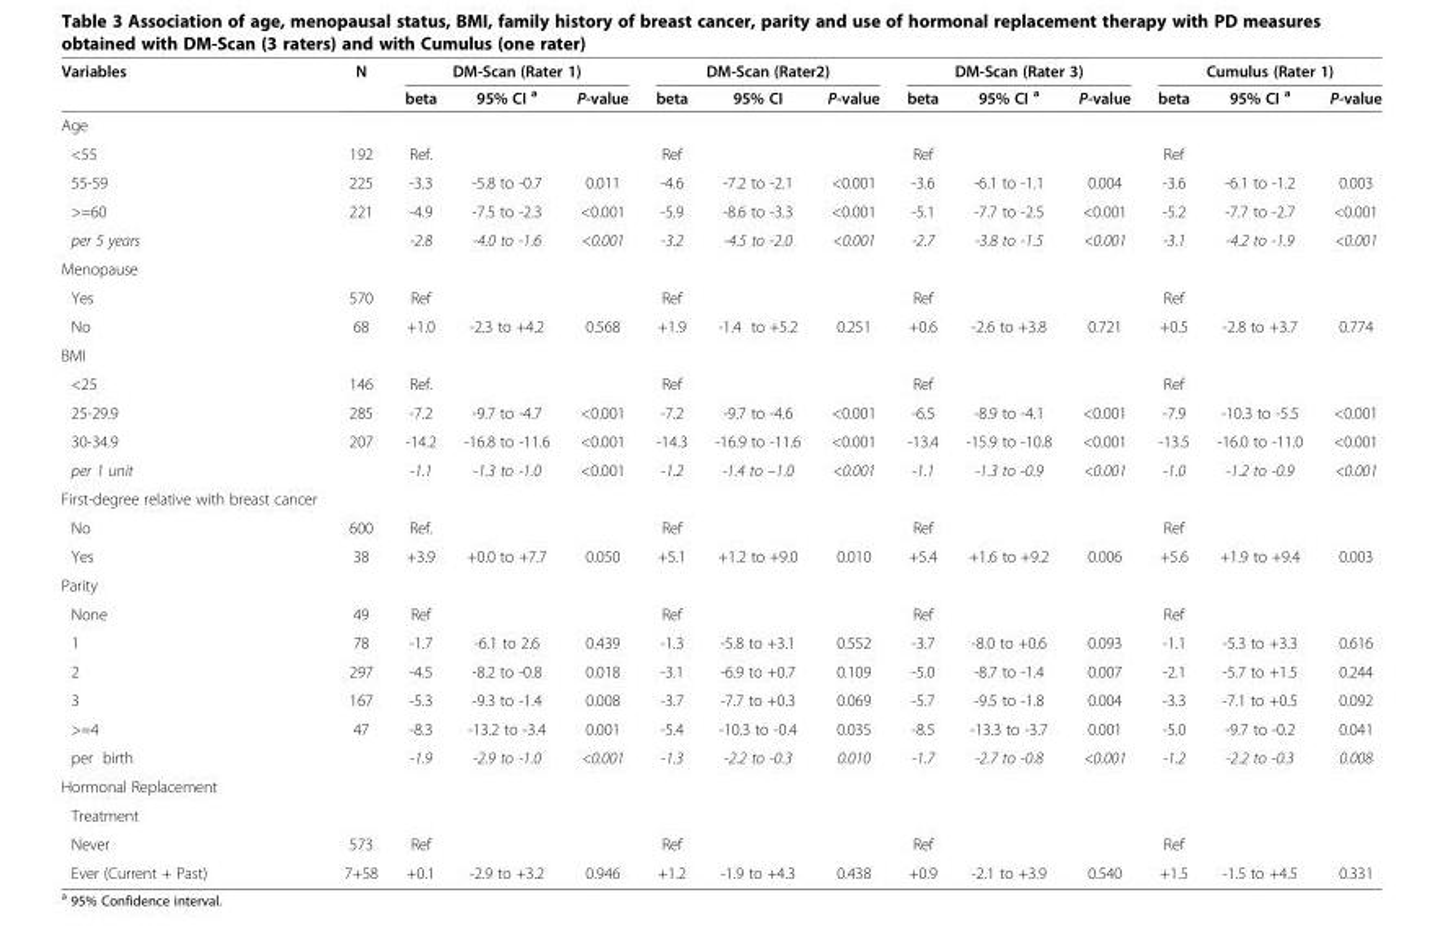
<table><thead><tr><td rowspan="2">Variables</td><td rowspan="2">N</td><td colspan="3">DM-Scan (Rater 1)</td><td colspan="3">DM-Scan (Rater2)</td><td colspan="3">DM-Scan (Rater 3)</td><td colspan="3">Cumulus (Rater 1)</td></tr><tr><td>beta</td><td>95% CI <sup>a</sup></td><td>P-value</td><td>beta</td><td>95% CI</td><td>P-value</td><td>beta</td><td>95% CI <sup>a</sup></td><td>P-value</td><td>beta</td><td>95% CI <sup>a</sup></td><td>P-value</td></tr></thead><tbody><tr><td colspan="14">Age</td></tr><tr><td>&lt;55</td><td>192</td><td>Ref.</td><td></td><td></td><td>Ref</td><td></td><td></td><td>Ref</td><td></td><td></td><td>Ref</td><td></td><td></td></tr><tr><td>55-59</td><td>225</td><td>-3.3</td><td>-5.8 to -0.7</td><td>0.011</td><td>-4.6</td><td>-7.2 to -2.1</td><td>&lt;0.001</td><td>-3.6</td><td>-6.1 to -1.1</td><td>0.004</td><td>-3.6</td><td>-6.1 to -1.2</td><td>0.003</td></tr><tr><td>&gt;=60</td><td>221</td><td>-4.9</td><td>-7.5 to -2.3</td><td>&lt;0.001</td><td>-5.9</td><td>-8.6 to -3.3</td><td>&lt;0.001</td><td>-5.1</td><td>-7.7 to -2.5</td><td>&lt;0.001</td><td>-5.2</td><td>-7.7 to -2.7</td><td>&lt;0.001</td></tr><tr><td>per 5 years</td><td></td><td>-2.8</td><td>-4.0 to -1.6</td><td>&lt;0.001</td><td>-3.2</td><td>-4.5 to -2.0</td><td>&lt;0.001</td><td>-2.7</td><td>-3.8 to -1.5</td><td>&lt;0.001</td><td>-3.1</td><td>-4.2 to -1.9</td><td>&lt;0.001</td></tr><tr><td colspan="14">Menopause</td></tr><tr><td>Yes</td><td>570</td><td>Ref</td><td></td><td></td><td>Ref</td><td></td><td></td><td>Ref</td><td></td><td></td><td>Ref</td><td></td><td></td></tr><tr><td>No</td><td>68</td><td>+1.0</td><td>-2.3 to +4.2</td><td>0.568</td><td>+1.9</td><td>-1.4 to +5.2</td><td>0.251</td><td>+0.6</td><td>-2.6 to +3.8</td><td>0.721</td><td>+0.5</td><td>-2.8 to +3.7</td><td>0.774</td></tr><tr><td colspan="14">BMI</td></tr><tr><td>&lt;25</td><td>146</td><td>Ref.</td><td></td><td></td><td>Ref</td><td></td><td></td><td>Ref</td><td></td><td></td><td>Ref</td><td></td><td></td></tr><tr><td>25-29.9</td><td>285</td><td>-7.2</td><td>-9.7 to -4.7</td><td>&lt;0.001</td><td>-7.2</td><td>-9.7 to -4.6</td><td>&lt;0.001</td><td>-6.5</td><td>-8.9 to -4.1</td><td>&lt;0.001</td><td>-7.9</td><td>-10.3 to -5.5</td><td>&lt;0.001</td></tr><tr><td>30-34.9</td><td>207</td><td>-14.2</td><td>-16.8 to -11.6</td><td>&lt;0.001</td><td>-14.3</td><td>-16.9 to -11.6</td><td>&lt;0.001</td><td>-13.4</td><td>-15.9 to -10.8</td><td>&lt;0.001</td><td>-13.5</td><td>-16.0 to -11.0</td><td>&lt;0.001</td></tr><tr><td>per 1 unit</td><td></td><td>-1.1</td><td>-1.3 to -1.0</td><td>&lt;0.001</td><td>-1.2</td><td>-1.4 to –1.0</td><td>&lt;0.001</td><td>-1.1</td><td>-1.3 to -0.9</td><td>&lt;0.001</td><td>-1.0</td><td>-1.2 to -0.9</td><td>&lt;0.001</td></tr><tr><td colspan="14">First-degree relative with breast cancer</td></tr><tr><td>No</td><td>600</td><td>Ref.</td><td></td><td></td><td>Ref</td><td></td><td></td><td>Ref</td><td></td><td></td><td>Ref</td><td></td><td></td></tr><tr><td>Yes</td><td>38</td><td>+3.9</td><td>+0.0 to +7.7</td><td>0.050</td><td>+5.1</td><td>+1.2 to +9.0</td><td>0.010</td><td>+5.4</td><td>+1.6 to +9.2</td><td>0.006</td><td>+5.6</td><td>+1.9 to +9.4</td><td>0.003</td></tr><tr><td colspan="14">Parity</td></tr><tr><td>None</td><td>49</td><td>Ref</td><td></td><td></td><td>Ref</td><td></td><td></td><td>Ref</td><td></td><td></td><td>Ref</td><td></td><td></td></tr><tr><td>1</td><td>78</td><td>-1.7</td><td>-6.1 to 2.6</td><td>0.439</td><td>-1.3</td><td>-5.8 to +3.1</td><td>0.552</td><td>-3.7</td><td>-8.0 to +0.6</td><td>0.093</td><td>-1.1</td><td>-5.3 to +3.3</td><td>0.616</td></tr><tr><td>2</td><td>297</td><td>-4.5</td><td>-8.2 to -0.8</td><td>0.018</td><td>-3.1</td><td>-6.9 to +0.7</td><td>0.109</td><td>-5.0</td><td>-8.7 to -1.4</td><td>0.007</td><td>-2.1</td><td>-5.7 to +1.5</td><td>0.244</td></tr><tr><td>3</td><td>167</td><td>-5.3</td><td>-9.3 to -1.4</td><td>0.008</td><td>-3.7</td><td>-7.7 to +0.3</td><td>0.069</td><td>-5.7</td><td>-9.5 to -1.8</td><td>0.004</td><td>-3.3</td><td>-7.1 to +0.5</td><td>0.092</td></tr><tr><td>&gt;=4</td><td>47</td><td>-8.3</td><td>-13.2 to -3.4</td><td>0.001</td><td>-5.4</td><td>-10.3 to -0.4</td><td>0.035</td><td>-8.5</td><td>-13.3 to -3.7</td><td>0.001</td><td>-5.0</td><td>-9.7 to -0.2</td><td>0.041</td></tr><tr><td>per birth</td><td></td><td>-1.9</td><td>-2.9 to -1.0</td><td>&lt;0.001</td><td>-1.3</td><td>-2.2 to -0.3</td><td>0.010</td><td>-1.7</td><td>-2.7 to -0.8</td><td>&lt;0.001</td><td>-1.2</td><td>-2.2 to -0.3</td><td>0.008</td></tr><tr><td colspan="14">Hormonal Replacement</td></tr><tr><td colspan="14">Treatment</td></tr><tr><td>Never</td><td>573</td><td>Ref</td><td></td><td></td><td>Ref</td><td></td><td></td><td>Ref</td><td></td><td></td><td>Ref</td><td></td><td></td></tr><tr><td>Ever (Current + Past)</td><td>7+58</td><td>+0.1</td><td>-2.9 to +3.2</td><td>0.946</td><td>+1.2</td><td>-1.9 to +4.3</td><td>0.438</td><td>+0.9</td><td>-2.1 to +3.9</td><td>0.540</td><td>+1.5</td><td>-1.5 to +4.5</td><td>0.331</td></tr></tbody></table>